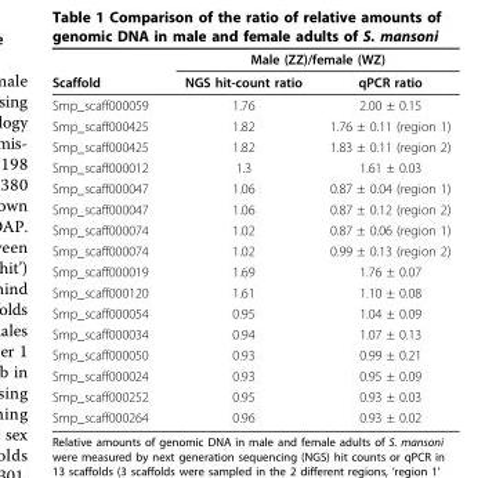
<table><thead><tr><td rowspan="2">Scaffold</td><td colspan="2">Male (ZZ)/female (WZ)</td></tr><tr><td>NGS hit-count ratio</td><td>qPCR ratio</td></tr></thead><tbody><tr><td>Smp_scaff000059</td><td>1.76</td><td>2.00 ± 0.15</td></tr><tr><td>Smp_scaff000425</td><td>1.82</td><td>1.76 ± 0.11 (region 1)</td></tr><tr><td>Smp_scaff000425</td><td>1.82</td><td>1.83 ± 0.11 (region 2)</td></tr><tr><td>Smp_scaff000012</td><td>1.3</td><td>1.61 ± 0.03</td></tr><tr><td>Smp_scaff000047</td><td>1.06</td><td>0.87 ± 0.04 (region 1)</td></tr><tr><td>Smp_scaff000047</td><td>1.06</td><td>0.87 ± 0.12 (region 2)</td></tr><tr><td>Smp_scaff000074</td><td>1.02</td><td>0.87 ± 0.06 (region 1)</td></tr><tr><td>Smp_scaff000074</td><td>1.02</td><td>0.99 ± 0.13 (region 2)</td></tr><tr><td>Smp_scaff000019</td><td>1.69</td><td>1.76 ± 0.07</td></tr><tr><td>Smp_scaff000120</td><td>1.61</td><td>1.10 ± 0.08</td></tr><tr><td>Smp_scaff000054</td><td>0.95</td><td>1.04 ± 0.09</td></tr><tr><td>Smp_scaff000034</td><td>0.94</td><td>1.07 ± 0.13</td></tr><tr><td>Smp_scaff000050</td><td>0.93</td><td>0.99 ± 0.21</td></tr><tr><td>Smp_scaff000024</td><td>0.93</td><td>0.95 ± 0.09</td></tr><tr><td>Smp_scaff000252</td><td>0.95</td><td>0.93 ± 0.03</td></tr><tr><td>Smp_scaff000264</td><td>0.96</td><td>0.93 ± 0.02</td></tr></tbody></table>